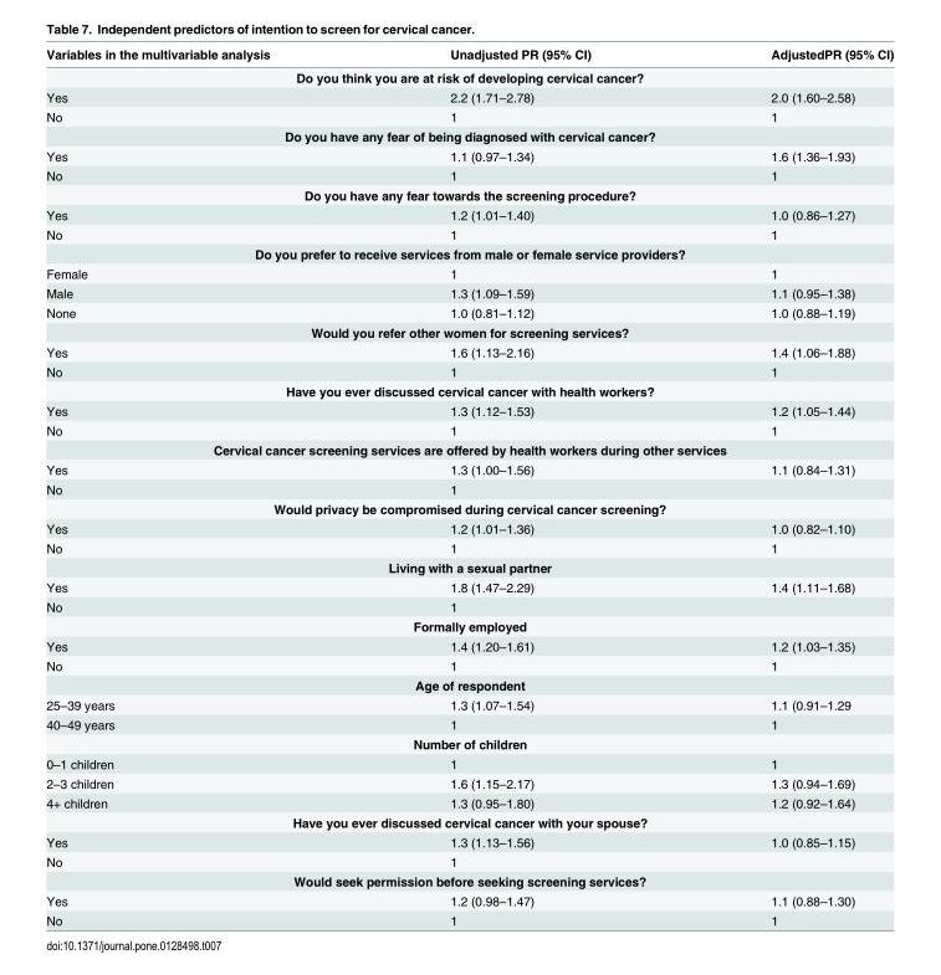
<table><thead><tr><td>Variables in the multivariable analysis</td><td>Unadjusted PR (95% CI)</td><td>AdjustedPR (95% CI)</td></tr></thead><tbody><tr><td colspan="3">Do you think you are at risk of developing cervical cancer?</td></tr><tr><td>Yes</td><td>2.2 (1.71–2.78)</td><td>2.0 (1.60–2.58)</td></tr><tr><td>No</td><td>1</td><td>1</td></tr><tr><td colspan="3">Do you have any fear of being diagnosed with cervical cancer?</td></tr><tr><td>Yes</td><td>1.1 (0.97–1.34)</td><td>1.6 (1.36–1.93)</td></tr><tr><td>No</td><td>1</td><td>1</td></tr><tr><td colspan="3">Do you have any fear towards the screening procedure?</td></tr><tr><td>Yes</td><td>1.2 (1.01–1.40)</td><td>1.0 (0.86–1.27)</td></tr><tr><td>No</td><td>1</td><td>1</td></tr><tr><td colspan="3">Do you prefer to receive services from male or female service providers?</td></tr><tr><td>Female</td><td>1</td><td>1</td></tr><tr><td>Male</td><td>1.3 (1.09–1.59)</td><td>1.1 (0.95–1.38)</td></tr><tr><td>None</td><td>1.0 (0.81–1.12)</td><td>1.0 (0.88–1.19)</td></tr><tr><td colspan="3">Would you refer other women for screening services?</td></tr><tr><td>Yes</td><td>1.6 (1.13–2.16)</td><td>1.4 (1.06–1.88)</td></tr><tr><td>No</td><td>1</td><td>1</td></tr><tr><td colspan="3">Have you ever discussed cervical cancer with health workers?</td></tr><tr><td>Yes</td><td>1.3 (1.12–1.53)</td><td>1.2 (1.05–1.44)</td></tr><tr><td>No</td><td>1</td><td>1</td></tr><tr><td colspan="3">Cervical cancer screening services are offered by health workers during other services</td></tr><tr><td>Yes</td><td>1.3 (1.00–1.56)</td><td>1.1 (0.84–1.31)</td></tr><tr><td>No</td><td>1</td><td></td></tr><tr><td colspan="3">Would privacy be compromised during cervical cancer screening?</td></tr><tr><td>Yes</td><td>1.2 (1.01–1.36)</td><td>1.0 (0.82–1.10)</td></tr><tr><td>No</td><td>1</td><td>1</td></tr><tr><td colspan="3">Living with a sexual partner</td></tr><tr><td>Yes</td><td>1.8 (1.47–2.29)</td><td>1.4 (1.11–1.68)</td></tr><tr><td>No</td><td>1</td><td></td></tr><tr><td colspan="3">Formally employed</td></tr><tr><td>Yes</td><td>1.4 (1.20–1.61)</td><td>1.2 (1.03–1.35)</td></tr><tr><td>No</td><td>1</td><td>1</td></tr><tr><td colspan="3">Age of respondent</td></tr><tr><td>25–39 years</td><td>1.3 (1.07–1.54)</td><td>1.1 (0.91–1.29</td></tr><tr><td>40–49 years</td><td>1</td><td>1</td></tr><tr><td colspan="3">Number of children</td></tr><tr><td>0–1 children</td><td>1</td><td>1</td></tr><tr><td>2–3 children</td><td>1.6 (1.15–2.17)</td><td>1.3 (0.94–1.69)</td></tr><tr><td>4+ children</td><td>1.3 (0.95–1.80)</td><td>1.2 (0.92–1.64)</td></tr><tr><td colspan="3">Have you ever discussed cervical cancer with your spouse?</td></tr><tr><td>Yes</td><td>1.3 (1.13–1.56)</td><td>1.0 (0.85–1.15)</td></tr><tr><td>No</td><td>1</td><td></td></tr><tr><td colspan="3">Would seek permission before seeking screening services?</td></tr><tr><td>Yes</td><td>1.2 (0.98–1.47)</td><td>1.1 (0.88–1.30)</td></tr><tr><td>No</td><td>1</td><td>1</td></tr></tbody></table>